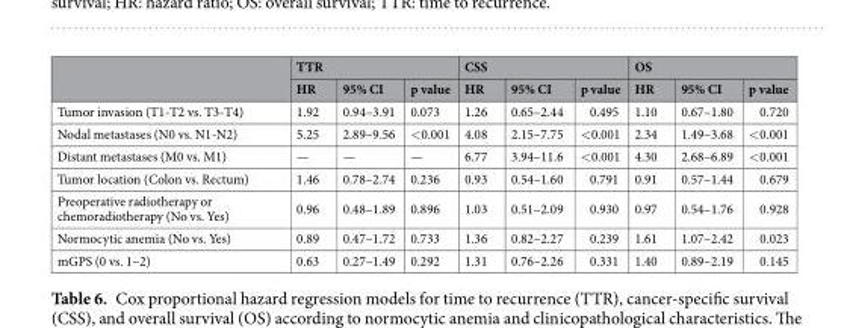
<table><thead><tr><td rowspan="2"></td><td colspan="3">TTR</td><td colspan="3">CSS</td><td colspan="3">OS</td></tr><tr><td>HR</td><td>95% CI</td><td>p value</td><td>HR</td><td>95% CI</td><td>p value</td><td>HR</td><td>95% CI</td><td>p value</td></tr></thead><tbody><tr><td>Tumor invasion (T1-T2 vs. T3-T4)</td><td>1.92</td><td>0.94–3.91</td><td>0.073</td><td>1.26</td><td>0.65–2.44</td><td>0.495</td><td>1.10</td><td>0.67–1.80</td><td>0.720</td></tr><tr><td>Nodal metastases (N0 vs. N1-N2)</td><td>5.25</td><td>2.89–9.56</td><td>&lt;0.001</td><td>4.08</td><td>2.15–7.75</td><td>&lt;0.001</td><td>2.34</td><td>1.49–3.68</td><td>&lt;0.001</td></tr><tr><td>Distant metastases (M0 vs. M1)</td><td>—</td><td>—</td><td>—</td><td>6.77</td><td>3.94–11.6</td><td>&lt;0.001</td><td>4.30</td><td>2.68–6.89</td><td>&lt;0.001</td></tr><tr><td>Tumor location (Colon vs. Rectum)</td><td>1.46</td><td>0.78–2.74</td><td>0.236</td><td>0.93</td><td>0.54–1.60</td><td>0.791</td><td>0.91</td><td>0.57–1.44</td><td>0.679</td></tr><tr><td>Preoperative radiotherapy or chemoradiotherapy (No vs. Yes)</td><td>0.96</td><td>0.48–1.89</td><td>0.896</td><td>1.03</td><td>0.51–2.09</td><td>0.930</td><td>0.97</td><td>0.54–1.76</td><td>0.928</td></tr><tr><td>Normocytic anemia (No vs. Yes)</td><td>0.89</td><td>0.47–1.72</td><td>0.733</td><td>1.36</td><td>0.82–2.27</td><td>0.239</td><td>1.61</td><td>1.07–2.42</td><td>0.023</td></tr><tr><td>mGPS (0 vs. 1–2)</td><td>0.63</td><td>0.27–1.49</td><td>0.292</td><td>1.31</td><td>0.76–2.26</td><td>0.331</td><td>1.40</td><td>0.89–2.19</td><td>0.145</td></tr></tbody></table>